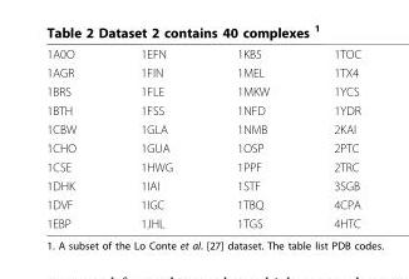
<table><tbody><tr><td>1A0O</td><td>1EFN</td><td>1KB5</td><td>1TOC</td></tr><tr><td>1AGR</td><td>1FIN</td><td>1MEL</td><td>1TX4</td></tr><tr><td>1BRS</td><td>1FLE</td><td>1MKW</td><td>1YCS</td></tr><tr><td>1BTH</td><td>1FSS</td><td>1NFD</td><td>1YDR</td></tr><tr><td>1CBW</td><td>1GLA</td><td>1NMB</td><td>2KAI</td></tr><tr><td>1CHO</td><td>1GUA</td><td>1OSP</td><td>2PTC</td></tr><tr><td>1CSE</td><td>1HWG</td><td>1PPF</td><td>2TRC</td></tr><tr><td>1DHK</td><td>1IAI</td><td>1STF</td><td>3SGB</td></tr><tr><td>1DVF</td><td>1IGC</td><td>1TBQ</td><td>4CPA</td></tr><tr><td>1EBP</td><td>1JHL</td><td>1TGS</td><td>4HTC</td></tr></tbody></table>